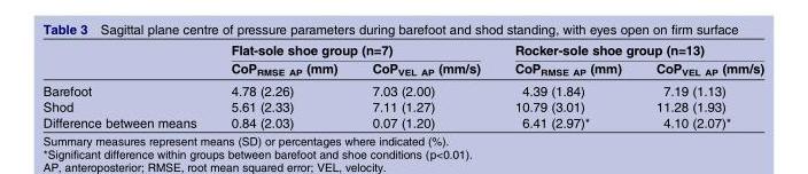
<table><thead><tr><td rowspan="2"></td><td colspan="2">Flat-sole shoe group (n=7)</td><td colspan="2">Rocker-sole shoe group (n=13)</td></tr><tr><td>CoP<sub>RMSE AP</sub> (mm)</td><td>CoP<sub>VEL AP</sub> (mm/s)</td><td>CoP<sub>RMSE AP</sub> (mm)</td><td>CoP<sub>VEL AP</sub> (mm/s)</td></tr></thead><tbody><tr><td>Barefoot</td><td>4.78 (2.26)</td><td>7.03 (2.00)</td><td>4.39 (1.84)</td><td>7.19 (1.13)</td></tr><tr><td>Shod</td><td>5.61 (2.33)</td><td>7.11 (1.27)</td><td>10.79 (3.01)</td><td>11.28 (1.93)</td></tr><tr><td>Difference between means</td><td>0.84 (2.03)</td><td>0.07 (1.20)</td><td>6.41 (2.97)*</td><td>4.10 (2.07)*</td></tr></tbody></table>